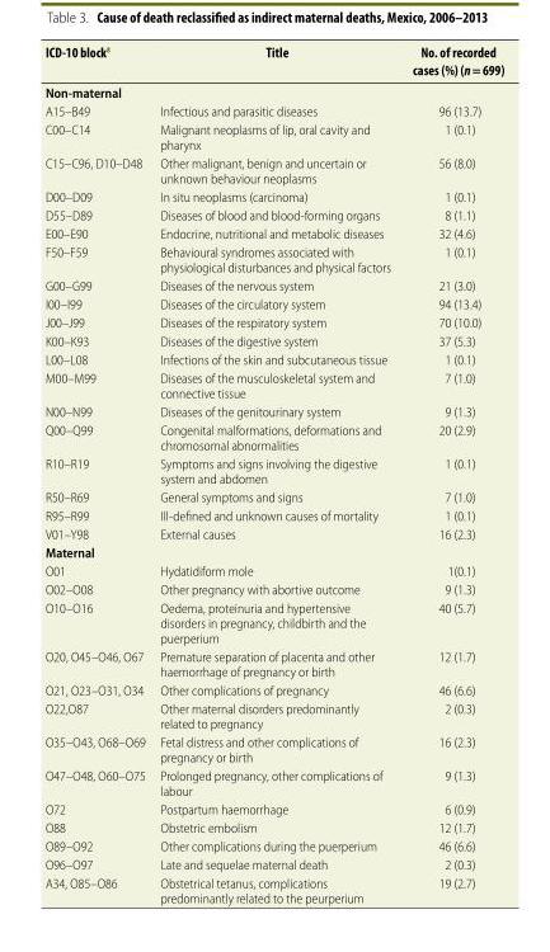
<table><thead><tr><td>ICD-10 block<sup>8</sup></td><td>Title</td><td>No. of recorded cases (%) (n = 699)</td></tr></thead><tbody><tr><td colspan="3">Non-maternal</td></tr><tr><td>A15–B49</td><td>Infectious and parasitic diseases</td><td>96 (13.7)</td></tr><tr><td>C00–C14</td><td>Malignant neoplasms of lip, oral cavity and pharynx</td><td>1 (0.1)</td></tr><tr><td>C15–C96, D10–D48</td><td>Other malignant, benign and uncertain or unknown behaviour neoplasms</td><td>56 (8.0)</td></tr><tr><td>D00–D09</td><td>In situ neoplasms (carcinoma)</td><td>1 (0.1)</td></tr><tr><td>D55–D89</td><td>Diseases of blood and blood-forming organs</td><td>8 (1.1)</td></tr><tr><td>E00–E90</td><td>Endocrine, nutritional and metabolic diseases</td><td>32 (4.6)</td></tr><tr><td>F50–F59</td><td>Behavioural syndromes associated with physiological disturbances and physical factors</td><td>1 (0.1)</td></tr><tr><td>G00–G99</td><td>Diseases of the nervous system</td><td>21 (3.0)</td></tr><tr><td>I00–I99</td><td>Diseases of the circulatory system</td><td>94 (13.4)</td></tr><tr><td>J00–J99</td><td>Diseases of the respiratory system</td><td>70 (10.0)</td></tr><tr><td>K00–K93</td><td>Diseases of the digestive system</td><td>37 (5.3)</td></tr><tr><td>L00–L08</td><td>Infections of the skin and subcutaneous tissue</td><td>1 (0.1)</td></tr><tr><td>M00–M99</td><td>Diseases of the musculoskeletal system and connective tissue</td><td>7 (1.0)</td></tr><tr><td>N00–N99</td><td>Diseases of the genitourinary system</td><td>9 (1.3)</td></tr><tr><td>Q00–Q99</td><td>Congenital malformations, deformations and chromosomal abnormalities</td><td>20 (2.9)</td></tr><tr><td>R10–R19</td><td>Symptoms and signs involving the digestive system and abdomen</td><td>1 (0.1)</td></tr><tr><td>R50–R69</td><td>General symptoms and signs</td><td>7 (1.0)</td></tr><tr><td>R95–R99</td><td>Ill-defined and unknown causes of mortality</td><td>1 (0.1)</td></tr><tr><td>V01–Y98</td><td>External causes</td><td>16 (2.3)</td></tr><tr><td colspan="3">Maternal</td></tr><tr><td>O01</td><td>Hydatidiform mole</td><td>1(0.1)</td></tr><tr><td>O02–O08</td><td>Other pregnancy with abortive outcome</td><td>9 (1.3)</td></tr><tr><td>O10–O16</td><td>Oedema, proteinuria and hypertensive disorders in pregnancy, childbirth and the puerperium</td><td>40 (5.7)</td></tr><tr><td>O20, O45–O46, O67</td><td>Premature separation of placenta and other haemorrhage of pregnancy or birth</td><td>12 (1.7)</td></tr><tr><td>O21, O23–O31, O34</td><td>Other complications of pregnancy</td><td>46 (6.6)</td></tr><tr><td>O22,O87</td><td>Other maternal disorders predominantly related to pregnancy</td><td>2 (0.3)</td></tr><tr><td>O35–O43, O68–O69</td><td>Fetal distress and other complications of pregnancy or birth</td><td>16 (2.3)</td></tr><tr><td>O47–O48, O60–O75</td><td>Prolonged pregnancy, other complications of labour</td><td>9 (1.3)</td></tr><tr><td>O72</td><td>Postpartum haemorrhage</td><td>6 (0.9)</td></tr><tr><td>O88</td><td>Obstetric embolism</td><td>12 (1.7)</td></tr><tr><td>O89–O92</td><td>Other complications during the puerperium</td><td>46 (6.6)</td></tr><tr><td>O96–O97</td><td>Late and sequelae maternal death</td><td>2 (0.3)</td></tr><tr><td>A34, O85–O86</td><td>Obstetrical tetanus, complications predominantly related to the peurperium</td><td>19 (2.7)</td></tr></tbody></table>